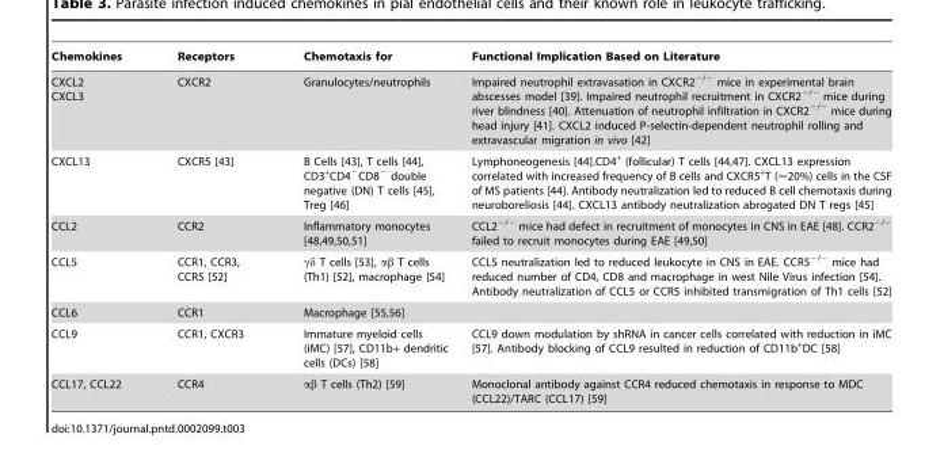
<table><thead><tr><td>Chemokines</td><td>Receptors</td><td>Chemotaxis for</td><td>Functional Implication Based on Literature</td></tr></thead><tbody><tr><td>CXCL2 CXCL3</td><td>CXCR2</td><td>Granulocytes/neutrophils</td><td>Impaired neutrophil extravasation in CXCR2<sup>−/−</sup> mice in experimental brain abscesses model [39]. Impaired neutrophil recruitment in CXCR2<sup>−/−</sup> mice during river blindness [40]. Attenuation of neutrophil infiltration in CXCR2<sup>−/−</sup> mice during head injury [41]. CXCL2 induced P-selectin-dependent neutrophil rolling and extravascular migration in vivo [42]</td></tr><tr><td>CXCL13</td><td>CXCR5 [43]</td><td>B Cells [43], T cells [44], CD3<sup>+</sup>CD4<sup>−</sup>CD8<sup>−</sup> double negative (DN) T cells [45], Treg [46]</td><td>Lymphoneogenesis [44].CD4+ (follicular) T cells [44,47]. CXCL13 expression correlated with increased frequency of B cells and CXCR5+T (&lt;20%) cells in the CSF of MS patients [44]. Antibody neutralization led to reduced B cell chemotaxis during neuroboreliosis [44]. CXCL13 antibody neutralization abrogated DN T regs [45]</td></tr><tr><td>CCL2</td><td>CCR2</td><td>Inflammatory monocytes [48,49,50,51]</td><td>CCL22/2 mice had defect in recruitment of monocytes in CNS in EAE [48]. CCR22/2 failed to recruit monocytes during EAE [49,50]</td></tr><tr><td>CCL5</td><td>CCR1, CCR3, CCR5 [52]</td><td>γδ T cells [53], αβ T cells (Th1) [52], macrophage [54]</td><td>CCL5 neutralization led to reduced leukocyte in CNS in EAE. CCR5<sup>−/−</sup> mice had reduced number of CD4, CD8 and macrophage in west Nile Virus infection [54]. Antibody neutralization of CCL5 or CCR5 inhibited transmigration of Th1 cells [52]</td></tr><tr><td>CCL6</td><td>CCR1</td><td>Macrophage [55,56]</td><td></td></tr><tr><td>CCL9</td><td>CCR1, CXCR3</td><td>Immature myeloid cells (iMC) [57], CD11b+ dendritic cells (DCs) [58]</td><td>CCL9 down modulation by shRNA in cancer cells correlated with reduction in iMC [57]. Antibody blocking of CCL9 resulted in reduction of CD11b<sup>+</sup>DC [58]</td></tr><tr><td>CCL17, CCL22</td><td>CCR4</td><td>αβ T cells (Th2) [59]</td><td>Monoclonal antibody against CCR4 reduced chemotaxis in response to MDC (CCL22)/TARC (CCL17) [59]</td></tr></tbody></table>